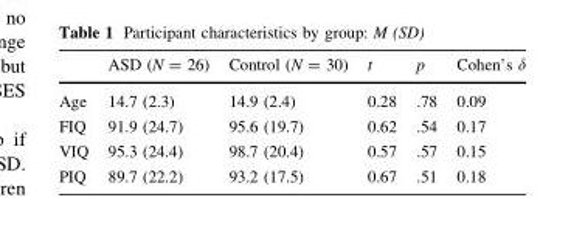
<table><thead><tr><td></td><td>ASD (N = 26)</td><td>Control (N = 30)</td><td>t</td><td>p</td><td>Cohen’s</td></tr></thead><tbody><tr><td>Age</td><td>14.7 (2.3)</td><td>14.9 (2.4)</td><td>0.28</td><td>.78</td><td>0.09</td></tr><tr><td>FIQ</td><td>91.9 (24.7)</td><td>95.6 (19.7)</td><td>0.62</td><td>.54</td><td>0.17</td></tr><tr><td>VIQ</td><td>95.3 (24.4)</td><td>98.7 (20.4)</td><td>0.57</td><td>.57</td><td>0.15</td></tr><tr><td>PIQ</td><td>89.7 (22.2)</td><td>93.2 (17.5)</td><td>0.67</td><td>.51</td><td>0.18</td></tr></tbody></table>